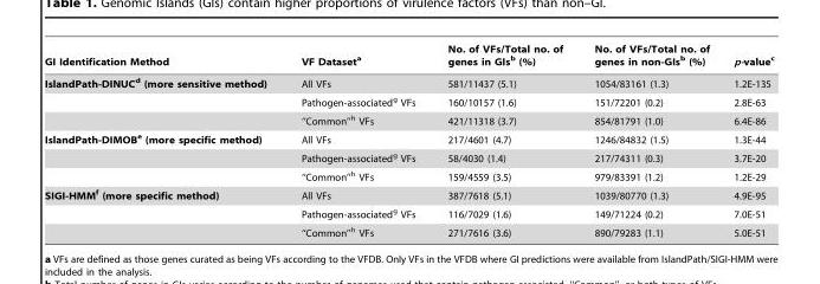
<table><thead><tr><td>GI Identification Method</td><td>VF Dataset<sup>a</sup></td><td>No. of VFs/Total no. of genes in GIs<sup>b</sup> (%)</td><td>No. of VFs/Total no. of genes in non-GIs<sup>b</sup> (%)</td><td>p-value<sup>c</sup></td></tr></thead><tbody><tr><td rowspan="3">IslandPath-DINUCd (more sensitive method)</td><td>All VFs</td><td>581/11437 (5.1)</td><td>1054/83161 (1.3)</td><td>1.2E-135</td></tr><tr><td>Pathogen-associated<sup>g</sup> VFs</td><td>160/10157 (1.6)</td><td>151/72201 (0.2)</td><td>2.8E-63</td></tr><tr><td>‘‘Common’’h VFs</td><td>421/11318 (3.7)</td><td>854/81791 (1.0)</td><td>6.4E-86</td></tr><tr><td rowspan="3">IslandPath-DIMOBe (more specific method)</td><td>All VFs</td><td>217/4601 (4.7)</td><td>1246/84832 (1.5)</td><td>1.3E-44</td></tr><tr><td>Pathogen-associated<sup>g</sup> VFs</td><td>58/4030 (1.4)</td><td>217/74311 (0.3)</td><td>3.7E-20</td></tr><tr><td>‘‘Common’’h VFs</td><td>159/4559 (3.5)</td><td>979/83391 (1.2)</td><td>1.2E-29</td></tr><tr><td rowspan="3">SIGI-HMMf (more specific method)</td><td>All VFs</td><td>387/7618 (5.1)</td><td>1039/80770 (1.3)</td><td>4.9E-95</td></tr><tr><td>Pathogen-associated<sup>g</sup> VFs</td><td>116/7029 (1.6)</td><td>149/71224 (0.2)</td><td>7.0E-51</td></tr><tr><td>‘‘Common’’h VFs</td><td>271/7616 (3.6)</td><td>890/79283 (1.1)</td><td>5.0E-51</td></tr></tbody></table>